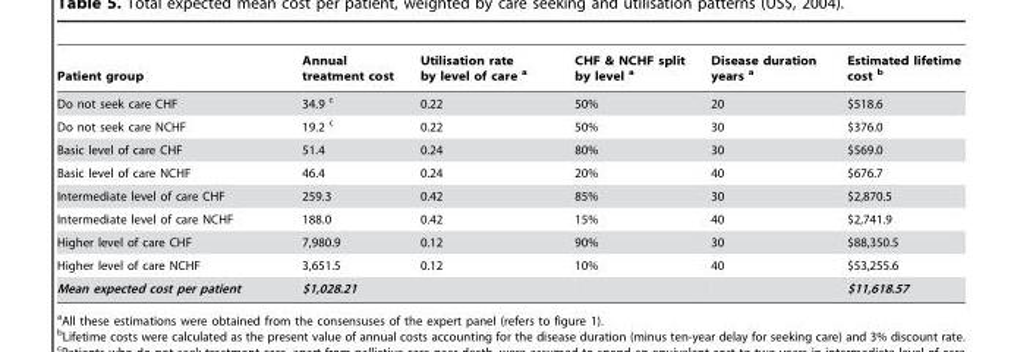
<table><thead><tr><td>Patient group</td><td>Annual treatment cost</td><td>Utilisation rate by level of care a</td><td>CHF &amp; NCHF split by level a</td><td>Disease duration years a</td><td>Estimated lifetime cost b</td></tr></thead><tbody><tr><td>Do not seek care CHF</td><td>34.9 c</td><td>0.22</td><td>50%</td><td>20</td><td>$518.6</td></tr><tr><td>Do not seek care NCHF</td><td>19.2 c</td><td>0.22</td><td>50%</td><td>30</td><td>$376.0</td></tr><tr><td>Basic level of care CHF</td><td>51.4</td><td>0.24</td><td>80%</td><td>30</td><td>$569.0</td></tr><tr><td>Basic level of care NCHF</td><td>46.4</td><td>0.24</td><td>20%</td><td>40</td><td>$676.7</td></tr><tr><td>Intermediate level of care CHF</td><td>259.3</td><td>0.42</td><td>85%</td><td>30</td><td>$2,870.5</td></tr><tr><td>Intermediate level of care NCHF</td><td>188.0</td><td>0.42</td><td>15%</td><td>40</td><td>$2,741.9</td></tr><tr><td>Higher level of care CHF</td><td>7,980.9</td><td>0.12</td><td>90%</td><td>30</td><td>$88,350.5</td></tr><tr><td>Higher level of care NCHF</td><td>3,651.5</td><td>0.12</td><td>10%</td><td>40</td><td>$53,255.6</td></tr><tr><td>Mean expected cost per patient</td><td>$1,028.21</td><td></td><td></td><td></td><td>$11,618.57</td></tr></tbody></table>